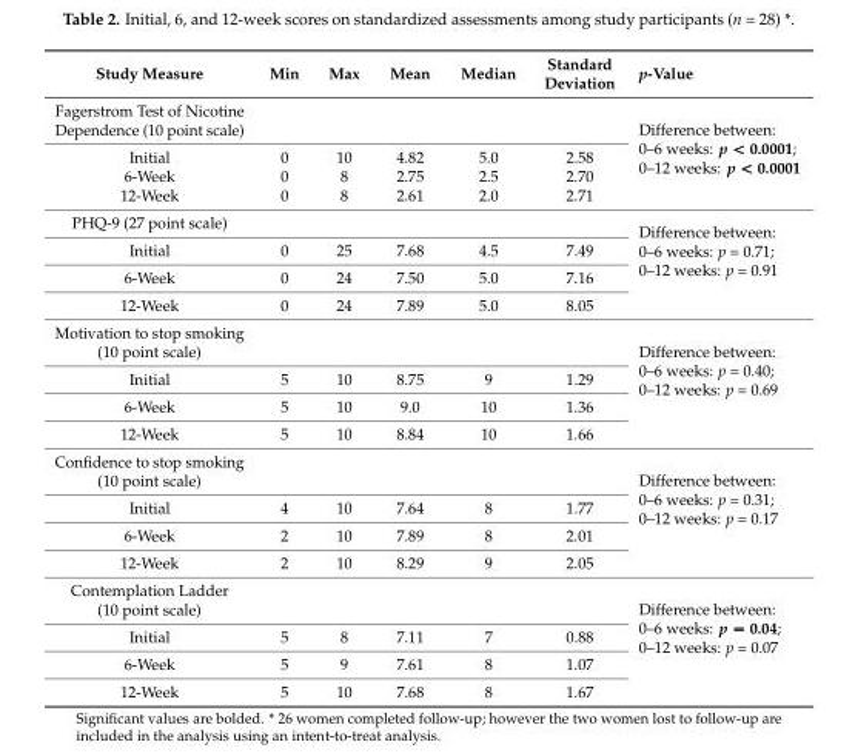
<table><thead><tr><td>Study Measure</td><td>Min</td><td>Max</td><td>Mean</td><td>Median</td><td>Standard Deviation</td><td>p-Value</td></tr></thead><tbody><tr><td colspan="6">Fagerstrom Test of Nicotine Dependence (10 point scale)</td><td rowspan="4">Difference between: 0–6 weeks: p ăăă 0.0001; 0–12 weeks: p ăăă 0.0001</td></tr><tr><td>Initial</td><td>0</td><td>10</td><td>4.82</td><td>5.0</td><td>2.58</td></tr><tr><td>6-Week</td><td>0</td><td>8</td><td>2.75</td><td>2.5</td><td>2.70</td></tr><tr><td>12-Week</td><td>0</td><td>8</td><td>2.61</td><td>2.0</td><td>2.71</td></tr><tr><td colspan="6">PHQ-9 (27 point scale)</td><td rowspan="4">Difference between: 0–6 weeks: p = 0.71; 0–12 weeks: p = 0.91</td></tr><tr><td>Initial</td><td>0</td><td>25</td><td>7.68</td><td>4.5</td><td>7.49</td></tr><tr><td>6-Week</td><td>0</td><td>24</td><td>7.50</td><td>5.0</td><td>7.16</td></tr><tr><td>12-Week</td><td>0</td><td>24</td><td>7.89</td><td>5.0</td><td>8.05</td></tr><tr><td colspan="6">Motivation to stop smoking (10 point scale)</td><td rowspan="4">Difference between: 0–6 weeks: p = 0.40; 0–12 weeks: p = 0.69</td></tr><tr><td>Initial</td><td>5</td><td>10</td><td>8.75</td><td>9</td><td>1.29</td></tr><tr><td>6-Week</td><td>5</td><td>10</td><td>9.0</td><td>10</td><td>1.36</td></tr><tr><td>12-Week</td><td>5</td><td>10</td><td>8.84</td><td>10</td><td>1.66</td></tr><tr><td colspan="6">Confidence to stop smoking (10 point scale)</td><td rowspan="4">Difference between: 0–6 weeks: p = 0.31; 0–12 weeks: p = 0.17</td></tr><tr><td>Initial</td><td>4</td><td>10</td><td>7.64</td><td>8</td><td>1.77</td></tr><tr><td>6-Week</td><td>2</td><td>10</td><td>7.89</td><td>8</td><td>2.01</td></tr><tr><td>12-Week</td><td>2</td><td>10</td><td>8.29</td><td>9</td><td>2.05</td></tr><tr><td colspan="6">Contemplation Ladder (10 point scale)</td><td rowspan="4">Difference between: 0–6 weeks: p “““ 0.04; 0–12 weeks: p = 0.07</td></tr><tr><td>Initial</td><td>5</td><td>8</td><td>7.11</td><td>7</td><td>0.88</td></tr><tr><td>6-Week</td><td>5</td><td>9</td><td>7.61</td><td>8</td><td>1.07</td></tr><tr><td>12-Week</td><td>5</td><td>10</td><td>7.68</td><td>8</td><td>1.67</td></tr></tbody></table>